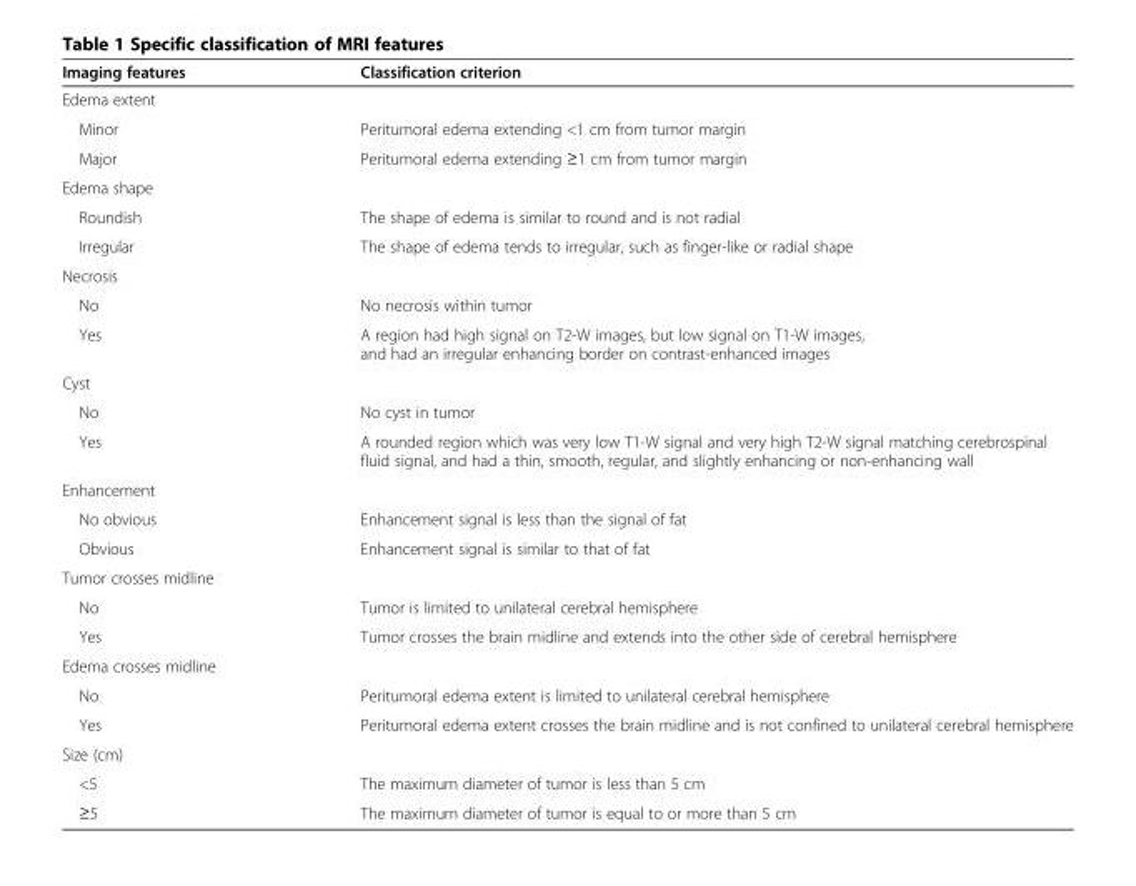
<table><thead><tr><td>Imaging features</td><td>Classification criterion</td></tr></thead><tbody><tr><td colspan="2">Edema extent</td></tr><tr><td>Minor</td><td>Peritumoral edema extending &lt;1 cm from tumor margin</td></tr><tr><td>Major</td><td>Peritumoral edema extending ≥1 cm from tumor margin</td></tr><tr><td colspan="2">Edema shape</td></tr><tr><td>Roundish</td><td>The shape of edema is similar to round and is not radial</td></tr><tr><td>Irregular</td><td>The shape of edema tends to irregular, such as finger-like or radial shape</td></tr><tr><td colspan="2">Necrosis</td></tr><tr><td>No</td><td>No necrosis within tumor</td></tr><tr><td>Yes</td><td>A region had high signal on T2-W images, but low signal on T1-W images, and had an irregular enhancing border on contrast-enhanced images</td></tr><tr><td colspan="2">Cyst</td></tr><tr><td>No</td><td>No cyst in tumor</td></tr><tr><td>Yes</td><td>A rounded region which was very low T1-W signal and very high T2-W signal matching cerebrospinal fluid signal, and had a thin, smooth, regular, and slightly enhancing or non-enhancing wall</td></tr><tr><td colspan="2">Enhancement</td></tr><tr><td>No obvious</td><td>Enhancement signal is less than the signal of fat</td></tr><tr><td>Obvious</td><td>Enhancement signal is similar to that of fat</td></tr><tr><td colspan="2">Tumor crosses midline</td></tr><tr><td>No</td><td>Tumor is limited to unilateral cerebral hemisphere</td></tr><tr><td>Yes</td><td>Tumor crosses the brain midline and extends into the other side of cerebral hemisphere</td></tr><tr><td colspan="2">Edema crosses midline</td></tr><tr><td>No</td><td>Peritumoral edema extent is limited to unilateral cerebral hemisphere</td></tr><tr><td>Yes</td><td>Peritumoral edema extent crosses the brain midline and is not confined to unilateral cerebral hemisphere</td></tr><tr><td colspan="2">Size (cm)</td></tr><tr><td>&lt;5</td><td>The maximum diameter of tumor is less than 5 cm</td></tr><tr><td>≥5</td><td>The maximum diameter of tumor is equal to or more than 5 cm</td></tr></tbody></table>